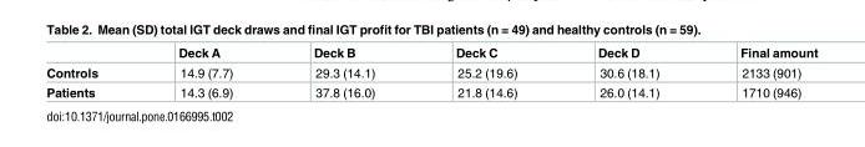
<table><thead><tr><td></td><td>Deck A</td><td>Deck B</td><td>Deck C</td><td>Deck D</td><td>Final amount</td></tr></thead><tbody><tr><td>Controls</td><td>14.9 (7.7)</td><td>29.3 (14.1)</td><td>25.2 (19.6)</td><td>30.6 (18.1)</td><td>2133 (901)</td></tr><tr><td>Patients</td><td>14.3 (6.9)</td><td>37.8 (16.0)</td><td>21.8 (14.6)</td><td>26.0 (14.1)</td><td>1710 (946)</td></tr></tbody></table>